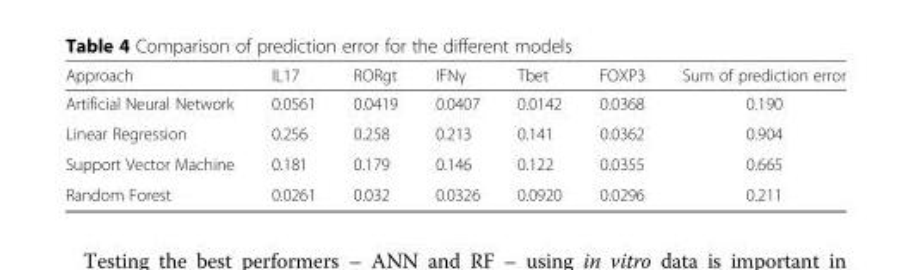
<table><thead><tr><td>Approach</td><td>IL17</td><td>RORgt</td><td>IFNγ</td><td>Tbet</td><td>FOXP3</td><td>Sum of prediction error</td></tr></thead><tbody><tr><td>Artificial Neural Network</td><td>0.0561</td><td>0.0419</td><td>0.0407</td><td>0.0142</td><td>0.0368</td><td>0.190</td></tr><tr><td>Linear Regression</td><td>0.256</td><td>0.258</td><td>0.213</td><td>0.141</td><td>0.0362</td><td>0.904</td></tr><tr><td>Support Vector Machine</td><td>0.181</td><td>0.179</td><td>0.146</td><td>0.122</td><td>0.0355</td><td>0.665</td></tr><tr><td>Random Forest</td><td>0.0261</td><td>0.032</td><td>0.0326</td><td>0.0920</td><td>0.0296</td><td>0.211</td></tr></tbody></table>